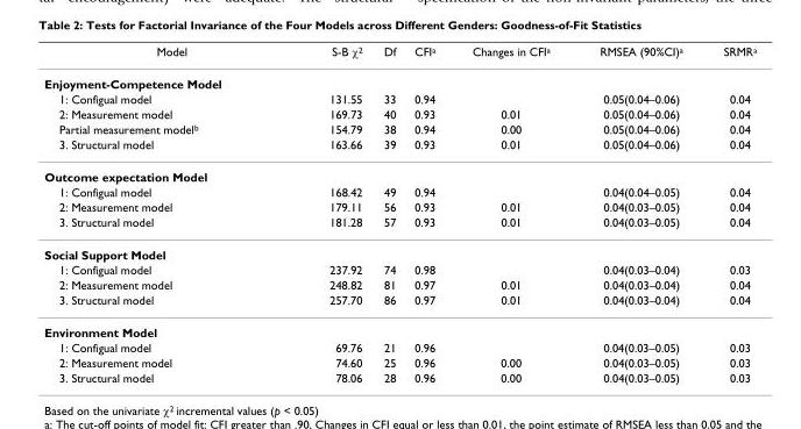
<table><thead><tr><td>Model</td><td>S-B χ<sup>2</sup></td><td>Df</td><td>CFI<sup>a</sup></td><td>Changes in CFI<sup>a</sup></td><td>RMSEA (90%CI)<sup>a</sup></td><td>SRMR<sup>a</sup></td></tr></thead><tbody><tr><td colspan="7">Enjoyment-Competence Model</td></tr><tr><td>1: Configual model</td><td>131.55</td><td>33</td><td>0.94</td><td></td><td>0.05(0.04–0.06)</td><td>0.04</td></tr><tr><td>2: Measurement model</td><td>169.73</td><td>40</td><td>0.93</td><td>0.01</td><td>0.05(0.04–0.06)</td><td>0.04</td></tr><tr><td>Partial measurement model<sup>b</sup></td><td>154.79</td><td>38</td><td>0.94</td><td>0.00</td><td>0.05(0.04–0.06)</td><td>0.04</td></tr><tr><td>3. Structural model</td><td>163.66</td><td>39</td><td>0.93</td><td>0.01</td><td>0.05(0.04–0.06)</td><td>0.04</td></tr><tr><td colspan="7">Outcome expectation Model</td></tr><tr><td>1: Configual model</td><td>168.42</td><td>49</td><td>0.94</td><td></td><td>0.04(0.04–0.05)</td><td>0.04</td></tr><tr><td>2: Measurement model</td><td>179.11</td><td>56</td><td>0.93</td><td>0.01</td><td>0.04(0.03–0.05)</td><td>0.04</td></tr><tr><td>3. Structural model</td><td>181.28</td><td>57</td><td>0.93</td><td>0.01</td><td>0.04(0.03–0.05)</td><td>0.04</td></tr><tr><td colspan="7">Social Support Model</td></tr><tr><td>1: Configual model</td><td>237.92</td><td>74</td><td>0.98</td><td></td><td>0.04(0.03–0.04)</td><td>0.03</td></tr><tr><td>2: Measurement model</td><td>248.82</td><td>81</td><td>0.97</td><td>0.01</td><td>0.04(0.03–0.04)</td><td>0.04</td></tr><tr><td>3. Structural model</td><td>257.70</td><td>86</td><td>0.97</td><td>0.01</td><td>0.04(0.03–0.04)</td><td>0.04</td></tr><tr><td colspan="7">Environment Model</td></tr><tr><td>1: Configual model</td><td>69.76</td><td>21</td><td>0.96</td><td></td><td>0.04(0.03–0.05)</td><td>0.03</td></tr><tr><td>2: Measurement model</td><td>74.60</td><td>25</td><td>0.96</td><td>0.00</td><td>0.04(0.03–0.05)</td><td>0.03</td></tr><tr><td>3. Structural model</td><td>78.06</td><td>28</td><td>0.96</td><td>0.00</td><td>0.04(0.03–0.05)</td><td>0.03</td></tr></tbody></table>